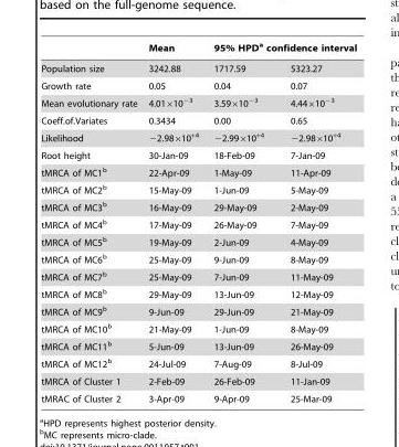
<table><thead><tr><td rowspan="2">Population size</td><td rowspan="2">Mean 3242.88</td><td colspan="2">95% HPD<sup>a</sup> confidence interval</td></tr><tr><td>1717.59</td><td>5323.27</td></tr></thead><tbody><tr><td>Growth rate</td><td>0.05</td><td>0.04</td><td>0.07</td></tr><tr><td>Mean evolutionary rate</td><td>4.01×10<sup>−3</sup></td><td>3.59×10<sup>−3</sup></td><td>4.44×10<sup>−3</sup></td></tr><tr><td>Coeff.of.Variates</td><td>0.3434</td><td>0.00</td><td>0.65</td></tr><tr><td>Likelihood</td><td>−2.98×10<sup>+4</sup></td><td>−2.99×10<sup>+4</sup></td><td>−2.98×10<sup>+4</sup></td></tr><tr><td>Root height</td><td>30-Jan-09</td><td>18-Feb-09</td><td>7-Jan-09</td></tr><tr><td>tMRCA of MC1<sup>b</sup></td><td>22-Apr-09</td><td>1-May-09</td><td>11-Apr-09</td></tr><tr><td>tMRCA of MC2<sup>b</sup></td><td>15-May-09</td><td>1-Jun-09</td><td>5-May-09</td></tr><tr><td>tMRCA of MC3<sup>b</sup></td><td>16-May-09</td><td>29-May-09</td><td>2-May-09</td></tr><tr><td>tMRCA of MC4<sup>b</sup></td><td>17-May-09</td><td>26-May-09</td><td>7-May-09</td></tr><tr><td>tMRCA of MC5<sup>b</sup></td><td>19-May-09</td><td>2-Jun-09</td><td>4-May-09</td></tr><tr><td>tMRCA of MC6<sup>b</sup></td><td>25-May-09</td><td>9-Jun-09</td><td>8-May-09</td></tr><tr><td>tMRCA of MC7<sup>b</sup></td><td>25-May-09</td><td>7-Jun-09</td><td>11-May-09</td></tr><tr><td>tMRCA of MC8<sup>b</sup></td><td>29-May-09</td><td>13-Jun-09</td><td>12-May-09</td></tr><tr><td>tMRCA of MC9<sup>b</sup></td><td>9-Jun-09</td><td>29-Jun-09</td><td>21-May-09</td></tr><tr><td>tMRCA of MC10<sup>b</sup></td><td>21-May-09</td><td>1-Jun-09</td><td>8-May-09</td></tr><tr><td>tMRCA of MC11<sup>b</sup></td><td>5-Jun-09</td><td>13-Jun-09</td><td>26-May-09</td></tr><tr><td>tMRCA of MC12<sup>b</sup></td><td>24-Jul-09</td><td>7-Aug-09</td><td>8-Jul-09</td></tr><tr><td>tMRCA of Cluster 1</td><td>2-Feb-09</td><td>26-Feb-09</td><td>11-Jan-09</td></tr><tr><td>tMRAC of Cluster 2</td><td>3-Apr-09</td><td>9-Apr-09</td><td>25-Mar-09</td></tr></tbody></table>